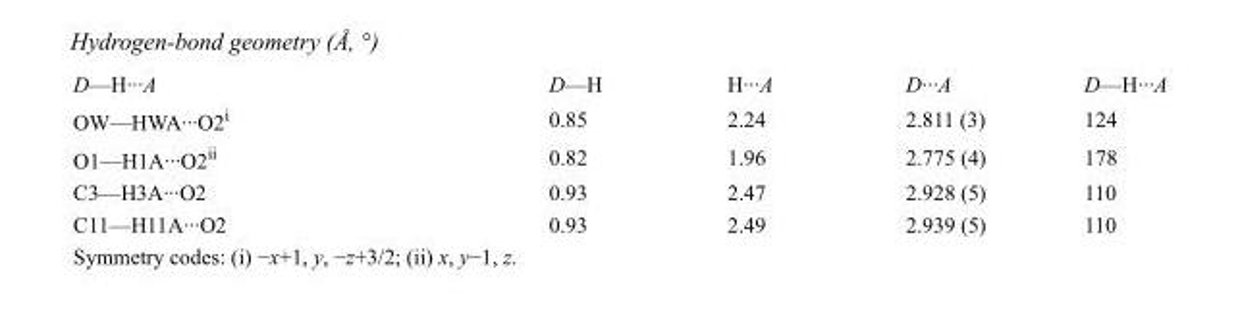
<table><tbody><tr><td>D—H···A</td><td>D—H</td><td>H···A</td><td>D···A</td><td>D—H···A</td></tr><tr><td>OW—HWA···O2<sup>i</sup></td><td>0.85</td><td>2.24</td><td>2.811 (3)</td><td>124</td></tr><tr><td>O1—H1A···O2<sup>ii</sup></td><td>0.82</td><td>1.96</td><td>2.775 (4)</td><td>178</td></tr><tr><td>C3—H3A···O2</td><td>0.93</td><td>2.47</td><td>2.928 (5)</td><td>110</td></tr><tr><td>C11—H11A···O2</td><td>0.93</td><td>2.49</td><td>2.939 (5)</td><td>110</td></tr></tbody></table>